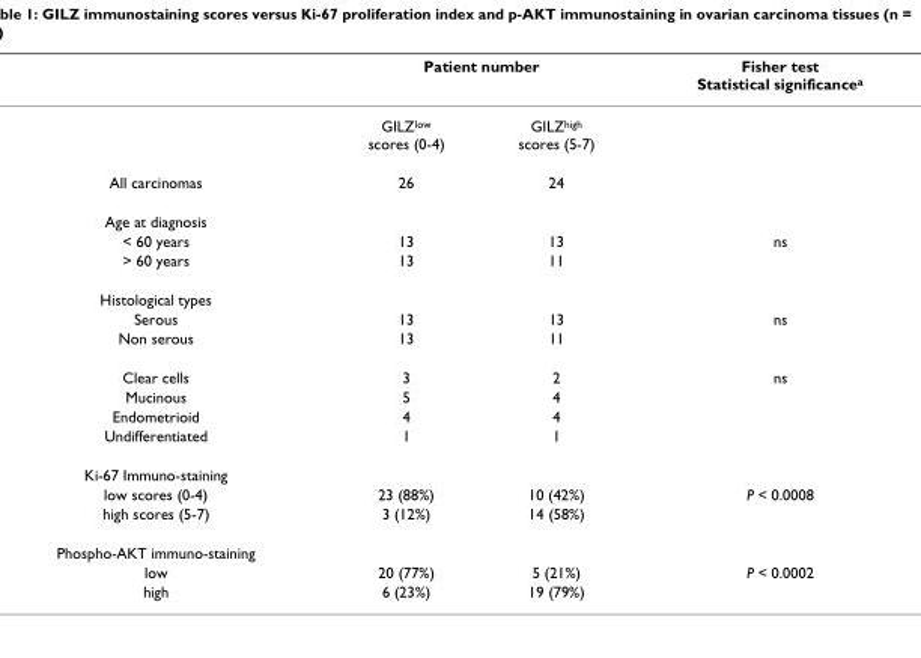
<table><thead><tr><td rowspan="2"></td><td colspan="2">Patient number</td><td rowspan="2">Fisher test Statistical significance<sup>a</sup></td></tr><tr><td>GILZ<sup>low</sup> scores (0-4)</td><td>GILZ<sup>high</sup> scores (5-7)</td></tr></thead><tbody><tr><td>All carcinomas</td><td>26</td><td>24</td><td></td></tr><tr><td colspan="4">Age at diagnosis</td></tr><tr><td>&lt; 60 years</td><td>13</td><td>13</td><td>ns</td></tr><tr><td>&gt; 60 years</td><td>13</td><td>11</td><td></td></tr><tr><td colspan="4">Histological types</td></tr><tr><td>Serous</td><td>13</td><td>13</td><td>ns</td></tr><tr><td>Non serous</td><td>13</td><td>11</td><td></td></tr><tr><td>Clear cells</td><td>3</td><td>2</td><td>ns</td></tr><tr><td>Mucinous</td><td>5</td><td>4</td><td></td></tr><tr><td>Endometrioid</td><td>4</td><td>4</td><td></td></tr><tr><td>Undifferentiated</td><td>1</td><td>1</td><td></td></tr><tr><td colspan="4">Ki-67 Immuno-staining</td></tr><tr><td>low scores (0-4)</td><td>23 (88%)</td><td>10 (42%)</td><td>P &lt; 0.0008</td></tr><tr><td>high scores (5-7)</td><td>3 (12%)</td><td>14 (58%)</td><td></td></tr><tr><td colspan="4">Phospho-AKT immuno-staining</td></tr><tr><td>low</td><td>20 (77%)</td><td>5 (21%)</td><td>P &lt; 0.0002</td></tr><tr><td>high</td><td>6 (23%)</td><td>19 (79%)</td><td></td></tr></tbody></table>